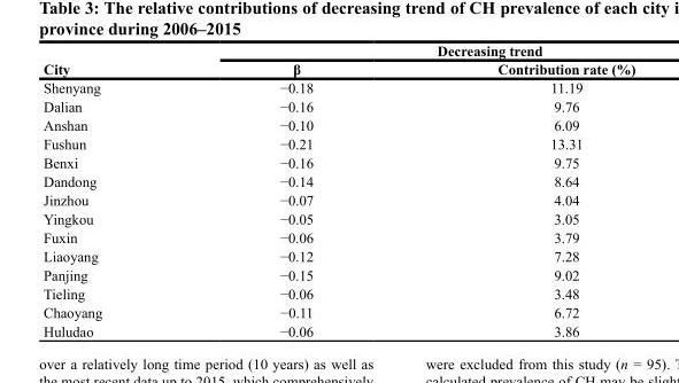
<table><thead><tr><td rowspan="2">City</td><td colspan="2">Decreasing trend</td></tr><tr><td>β</td><td>Contribution rate (%)</td></tr></thead><tbody><tr><td>Shenyang</td><td>−0.18</td><td>11.19</td></tr><tr><td>Dalian</td><td>−0.16</td><td>9.76</td></tr><tr><td>Anshan</td><td>−0.10</td><td>6.09</td></tr><tr><td>Fushun</td><td>−0.21</td><td>13.31</td></tr><tr><td>Benxi</td><td>−0.16</td><td>9.75</td></tr><tr><td>Dandong</td><td>−0.14</td><td>8.64</td></tr><tr><td>Jinzhou</td><td>−0.07</td><td>4.04</td></tr><tr><td>Yingkou</td><td>−0.05</td><td>3.05</td></tr><tr><td>Fuxin</td><td>−0.06</td><td>3.79</td></tr><tr><td>Liaoyang</td><td>−0.12</td><td>7.28</td></tr><tr><td>Panjing</td><td>−0.15</td><td>9.02</td></tr><tr><td>Tieling</td><td>−0.06</td><td>3.48</td></tr><tr><td>Chaoyang</td><td>−0.11</td><td>6.72</td></tr><tr><td>Huludao</td><td>−0.06</td><td>3.86</td></tr></tbody></table>